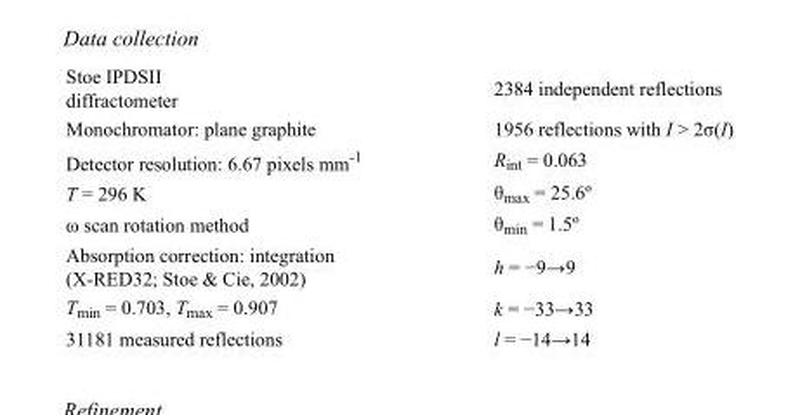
<table><tbody><tr><td>Stoe IPDSII diffractometer</td><td>2384 independent reflections</td></tr><tr><td>Monochromator: plane graphite</td><td>1956 reflections with I &gt; 2σ(I)</td></tr><tr><td>Detector resolution: 6.67 pixels mm<sup>-1</sup></td><td>R<sub>int</sub> = 0.063</td></tr><tr><td>T = 296 K</td><td>θ<sub>max</sub> = 25.6º</td></tr><tr><td>ω scan rotation method</td><td>θ<sub>min</sub> = 1.5º</td></tr><tr><td>Absorption correction: integration (X-RED32; Stoe &amp; Cie, 2002)</td><td>h = −9→9</td></tr><tr><td>T<sub>min</sub> = 0.703, T<sub>max</sub> = 0.907</td><td>k = −33→33</td></tr><tr><td>31181 measured reflections</td><td>l = −14→14</td></tr></tbody></table>